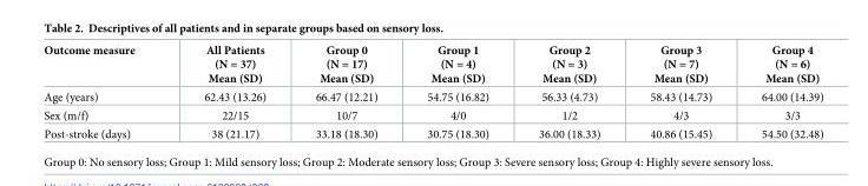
<table><thead><tr><td>Outcome measure</td><td>All Patients (N = 37) Mean (SD)</td><td>Group 0 (N = 17) Mean (SD)</td><td>Group 1 (N = 4) Mean (SD)</td><td>Group 2 (N = 3) Mean (SD)</td><td>Group 3 (N = 7) Mean (SD)</td><td>Group 4 (N = 6) Mean (SD)</td></tr></thead><tbody><tr><td>Age (years)</td><td>62.43 (13.26)</td><td>66.47 (12.21)</td><td>54.75 (16.82)</td><td>56.33 (4.73)</td><td>58.43 (14.73)</td><td>64.00 (14.39)</td></tr><tr><td>Sex (m/f)</td><td>22/15</td><td>10/7</td><td>4/0</td><td>1/2</td><td>4/3</td><td>3/3</td></tr><tr><td>Post-stroke (days)</td><td>38 (21.17)</td><td>33.18 (18.30)</td><td>30.75 (18.30)</td><td>36.00 (18.33)</td><td>40.86 (15.45)</td><td>54.50 (32.48)</td></tr></tbody></table>